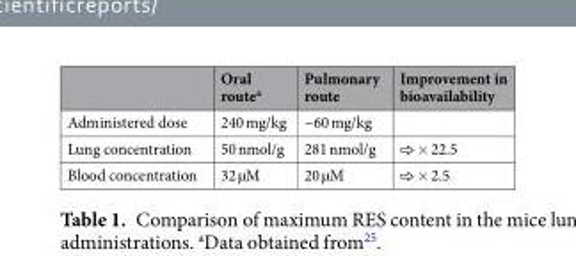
<table><thead><tr><td></td><td>Oral route<sup>a</sup></td><td>Pulmonary route</td><td>Improvement in bioavailability</td></tr></thead><tbody><tr><td>Administered dose</td><td>240 mg/kg</td><td>~60 mg/kg</td><td></td></tr><tr><td>Lung concentration</td><td>50 nmol/g</td><td>281 nmol/g</td><td>⇨ × 22.5</td></tr><tr><td>Blood concentration</td><td>32 µM</td><td>20 µM</td><td>⇨ × 2.5</td></tr></tbody></table>